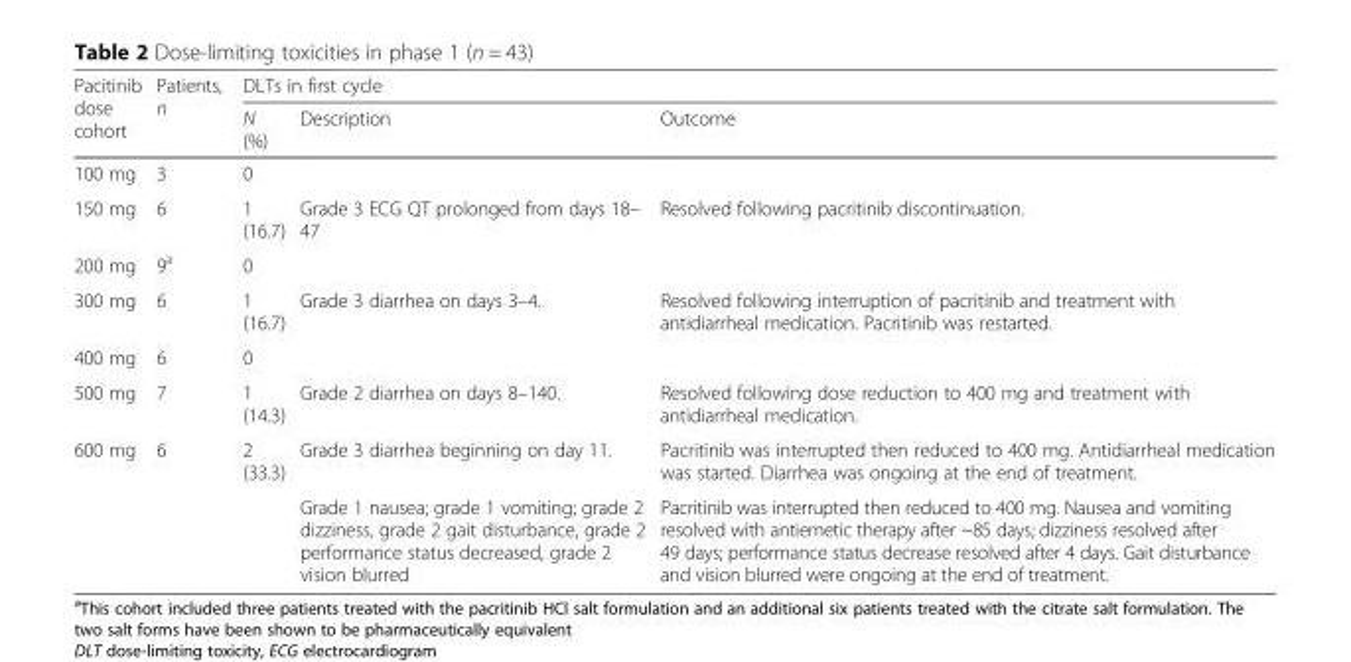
<table><thead><tr><td rowspan="2">Pacitinib dose cohort</td><td rowspan="2">Patients, n</td><td colspan="3">DLTs in first cycle</td></tr><tr><td>N (%)</td><td>Description</td><td>Outcome</td></tr></thead><tbody><tr><td>100 mg</td><td>3</td><td>0</td><td></td><td></td></tr><tr><td>150 mg</td><td>6</td><td>1 (16.7)</td><td>Grade 3 ECG QT prolonged from days 18– 47</td><td>Resolved following pacritinib discontinuation.</td></tr><tr><td>200 mg</td><td>9<sup>a</sup></td><td>0</td><td></td><td></td></tr><tr><td>300 mg</td><td>6</td><td>1 (16.7)</td><td>Grade 3 diarrhea on days 3–4.</td><td>Resolved following interruption of pacritinib and treatment with antidiarrheal medication. Pacritinib was restarted.</td></tr><tr><td>400 mg</td><td>6</td><td>0</td><td></td><td></td></tr><tr><td>500 mg</td><td>7</td><td>1 (14.3)</td><td>Grade 2 diarrhea on days 8–140.</td><td>Resolved following dose reduction to 400 mg and treatment with antidiarrheal medication.</td></tr><tr><td rowspan="2">600 mg</td><td rowspan="2">6</td><td rowspan="2">2 (33.3)</td><td>Grade 3 diarrhea beginning on day 11.</td><td>Pacritinib was interrupted then reduced to 400 mg. Antidiarrheal medication was started. Diarrhea was ongoing at the end of treatment.</td></tr><tr><td>Grade 1 nausea; grade 1 vomiting; grade 2 dizziness, grade 2 gait disturbance, grade 2 performance status decreased, grade 2 vision blurred</td><td>Pacritinib was interrupted then reduced to 400 mg. Nausea and vomiting resolved with antiemetic therapy after ~85 days; dizziness resolved after 49 days; performance status decrease resolved after 4 days. Gait disturbance and vision blurred were ongoing at the end of treatment.</td></tr></tbody></table>